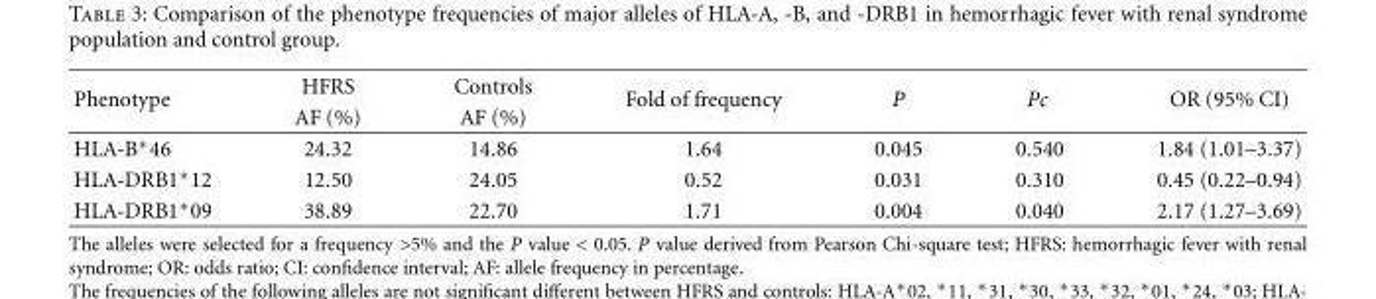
<table><thead><tr><td rowspan="2">Phenotype</td><td rowspan="2">HFRS AF (%)</td><td rowspan="2">Controls AF (%)</td><td rowspan="2">Fold of frequency</td><td rowspan="2">P</td><td rowspan="2">Pc</td><td rowspan="2">OR (95% CI)</td></tr><tr></tr></thead><tbody><tr><td>HLA-B∗46</td><td>24.32</td><td>14.86</td><td>1.64</td><td>0.045</td><td>0.540</td><td>1.84 (1.01–3.37)</td></tr><tr><td>HLA-DRB1∗12</td><td>12.50</td><td>24.05</td><td>0.52</td><td>0.031</td><td>0.310</td><td>0.45 (0.22–0.94)</td></tr><tr><td>HLA-DRB1∗09</td><td>38.89</td><td>22.70</td><td>1.71</td><td>0.004</td><td>0.040</td><td>2.17 (1.27–3.69)</td></tr></tbody></table>